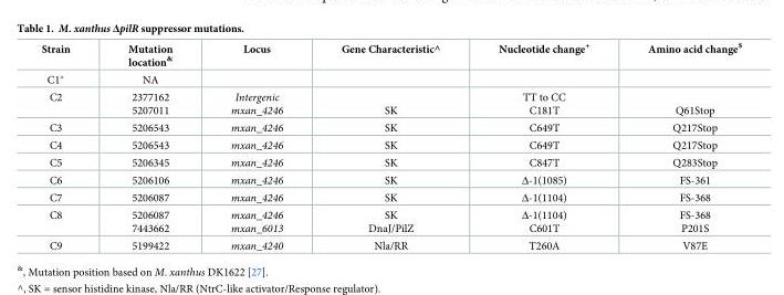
<table><thead><tr><td>Strain</td><td>Mutation location<sup>&amp;</sup></td><td>Locus</td><td>Gene Characteristic^</td><td>Nucleotide change<sup>+</sup></td><td>Amino acid change<sup>$</sup></td></tr></thead><tbody><tr><td>C1*</td><td>NA</td><td></td><td></td><td></td><td></td></tr><tr><td>C2</td><td>2377162 5207011</td><td>Intergenic mxan_4246</td><td>SK</td><td>TT to CC C181T</td><td>Q61Stop</td></tr><tr><td>C3</td><td>5206543</td><td>mxan_4246</td><td>SK</td><td>C649T</td><td>Q217Stop</td></tr><tr><td>C4</td><td>5206543</td><td>mxan_4246</td><td>SK</td><td>C649T</td><td>Q217Stop</td></tr><tr><td>C5</td><td>5206345</td><td>mxan_4246</td><td>SK</td><td>C847T</td><td>Q283Stop</td></tr><tr><td>C6</td><td>5206106</td><td>mxan_4246</td><td>SK</td><td>Δ-1(1085)</td><td>FS-361</td></tr><tr><td>C7</td><td>5206087</td><td>mxan_4246</td><td>SK</td><td>Δ-1(1104)</td><td>FS-368</td></tr><tr><td>C8</td><td>5206087 7443662</td><td>mxan_4246 mxan_6013</td><td>SK DnaJ/PilZ</td><td>Δ-1(1104) C601T</td><td>FS-368 P201S</td></tr><tr><td>C9</td><td>5199422</td><td>mxan_4240</td><td>Nla/RR</td><td>T260A</td><td>V87E</td></tr></tbody></table>